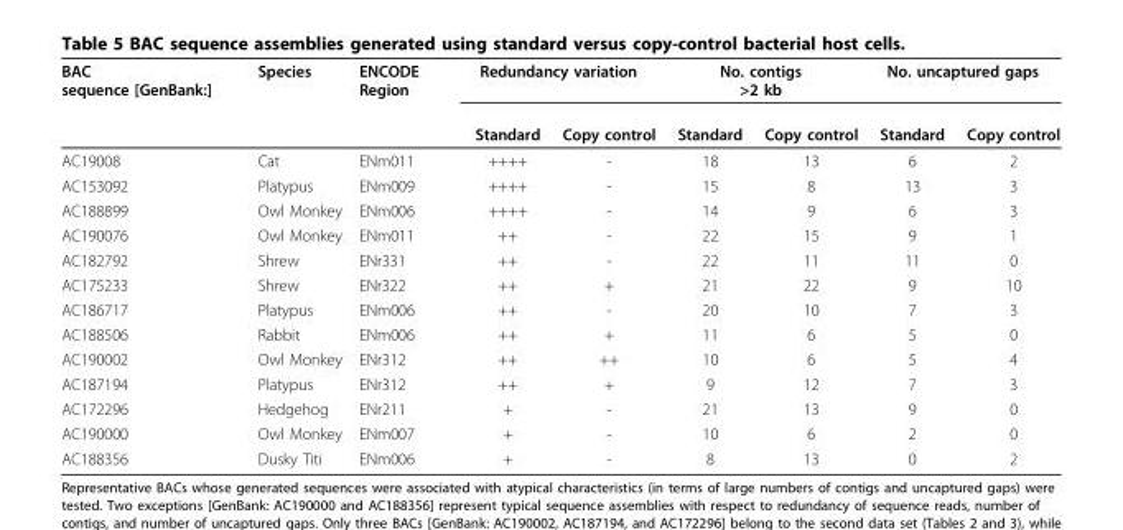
<table><thead><tr><td rowspan="2">BAC sequence [GenBank:]</td><td rowspan="2">Species</td><td rowspan="2">ENCODE Region</td><td colspan="2">Redundancy variation</td><td colspan="2">No. contigs &gt;2 kb</td><td colspan="2">No. uncaptured gaps</td></tr><tr><td>Standard</td><td>Copy control</td><td>Standard</td><td>Copy control</td><td>Standard</td><td>Copy control</td></tr></thead><tbody><tr><td>AC19008</td><td>Cat</td><td>ENm011</td><td>++++</td><td>-</td><td>18</td><td>13</td><td>6</td><td>2</td></tr><tr><td>AC153092</td><td>Platypus</td><td>ENm009</td><td>++++</td><td>-</td><td>15</td><td>8</td><td>13</td><td>3</td></tr><tr><td>AC188899</td><td>Owl Monkey</td><td>ENm006</td><td>++++</td><td>-</td><td>14</td><td>9</td><td>6</td><td>3</td></tr><tr><td>AC190076</td><td>Owl Monkey</td><td>ENm011</td><td>++</td><td>-</td><td>22</td><td>15</td><td>9</td><td>1</td></tr><tr><td>AC182792</td><td>Shrew</td><td>ENr331</td><td>++</td><td>-</td><td>22</td><td>11</td><td>11</td><td>0</td></tr><tr><td>AC175233</td><td>Shrew</td><td>ENr322</td><td>++</td><td>+</td><td>21</td><td>22</td><td>9</td><td>10</td></tr><tr><td>AC186717</td><td>Platypus</td><td>ENm006</td><td>++</td><td>-</td><td>20</td><td>10</td><td>7</td><td>3</td></tr><tr><td>AC188506</td><td>Rabbit</td><td>ENm006</td><td>++</td><td>+</td><td>11</td><td>6</td><td>5</td><td>0</td></tr><tr><td>AC190002</td><td>Owl Monkey</td><td>ENr312</td><td>++</td><td>++</td><td>10</td><td>6</td><td>5</td><td>4</td></tr><tr><td>AC187194</td><td>Platypus</td><td>ENr312</td><td>++</td><td>+</td><td>9</td><td>12</td><td>7</td><td>3</td></tr><tr><td>AC172296</td><td>Hedgehog</td><td>ENr211</td><td>+</td><td>-</td><td>21</td><td>13</td><td>9</td><td>0</td></tr><tr><td>AC190000</td><td>Owl Monkey</td><td>ENm007</td><td>+</td><td>-</td><td>10</td><td>6</td><td>2</td><td>0</td></tr><tr><td>AC188356</td><td>Dusky Titi</td><td>ENm006</td><td>+</td><td>-</td><td>8</td><td>13</td><td>0</td><td>2</td></tr></tbody></table>